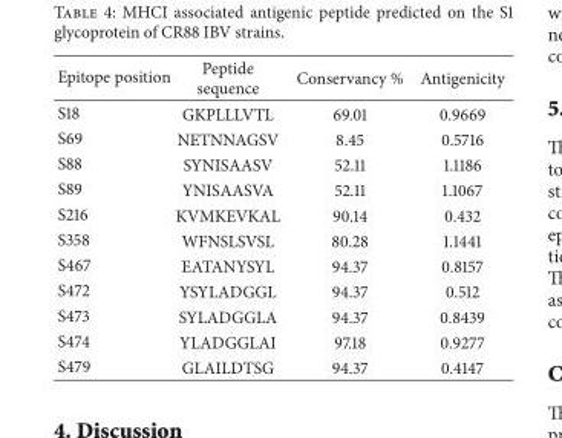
<table><thead><tr><td>Epitope position</td><td>Peptide sequence</td><td>Conservancy %</td><td>Antigenicity</td></tr></thead><tbody><tr><td>S18</td><td>GKPLLLVTL</td><td>69.01</td><td>0.9669</td></tr><tr><td>S69</td><td>NETNNAGSV</td><td>8.45</td><td>0.5716</td></tr><tr><td>S88</td><td>SYNISAASV</td><td>52.11</td><td>1.1186</td></tr><tr><td>S89</td><td>YNISAASVA</td><td>52.11</td><td>1.1067</td></tr><tr><td>S216</td><td>KVMKEVKAL</td><td>90.14</td><td>0.432</td></tr><tr><td>S358</td><td>WFNSLSVSL</td><td>80.28</td><td>1.1441</td></tr><tr><td>S467</td><td>EATANYSYL</td><td>94.37</td><td>0.8157</td></tr><tr><td>S472</td><td>YSYLADGGL</td><td>94.37</td><td>0.512</td></tr><tr><td>S473</td><td>SYLADGGLA</td><td>94.37</td><td>0.8439</td></tr><tr><td>S474</td><td>YLADGGLAI</td><td>97.18</td><td>0.9277</td></tr><tr><td>S479</td><td>GLAILDTSG</td><td>94.37</td><td>0.4147</td></tr></tbody></table>